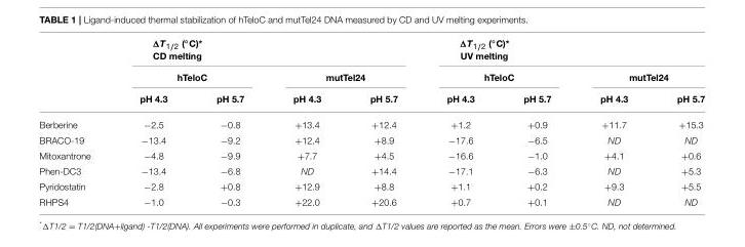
<table><thead><tr><td rowspan="3"></td><td colspan="4">ΔT1/2 (◦C)* CD melting</td><td colspan="4">ΔT1/2 (◦C)* UV melting</td></tr><tr><td colspan="2">hTeloC</td><td colspan="2">mutTel24</td><td colspan="2">hTeloC</td><td colspan="2">mutTel24</td></tr><tr><td>pH 4.3</td><td>pH 5.7</td><td>pH 4.3</td><td>pH 5.7</td><td>pH 4.3</td><td>pH 5.7</td><td>pH 4.3</td><td>pH 5.7</td></tr></thead><tbody><tr><td>Berberine</td><td>−2.5</td><td>−0.8</td><td>+13.4</td><td>+12.4</td><td>+1.2</td><td>+0.9</td><td>+11.7</td><td>+15.3</td></tr><tr><td>BRACO-19</td><td>−13.4</td><td>−9.2</td><td>+12.4</td><td>+8.9</td><td>−17.6</td><td>−6.5</td><td>ND</td><td>ND</td></tr><tr><td>Mitoxantrone</td><td>−4.8</td><td>−9.9</td><td>+7.7</td><td>+4.5</td><td>−16.6</td><td>−1.0</td><td>+4.1</td><td>+0.6</td></tr><tr><td>Phen-DC3</td><td>−13.4</td><td>−6.8</td><td>ND</td><td>+14.4</td><td>−17.1</td><td>−6.3</td><td>ND</td><td>+5.3</td></tr><tr><td>Pyridostatin</td><td>−2.8</td><td>+0.8</td><td>+12.9</td><td>+8.8</td><td>+1.1</td><td>+0.2</td><td>+9.3</td><td>+5.5</td></tr><tr><td>RHPS4</td><td>−1.0</td><td>−0.3</td><td>+22.0</td><td>+20.6</td><td>+0.7</td><td>+0.1</td><td>ND</td><td>ND</td></tr></tbody></table>